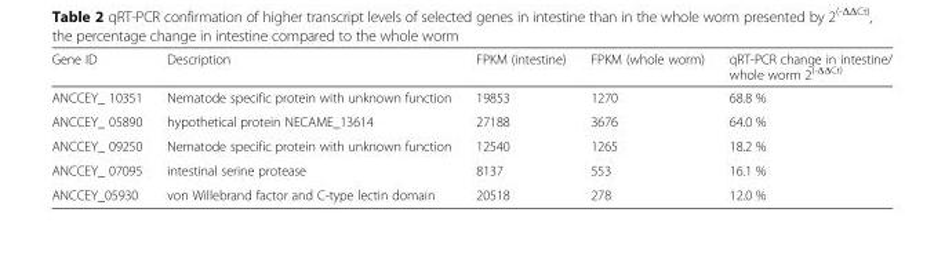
<table><thead><tr><td>Gene ID</td><td>Description</td><td>FPKM (intestine)</td><td>FPKM (whole worm)</td><td>qRT-PCR change in intestine/ whole worm 2<sup>(-ΔΔCt)</sup></td></tr></thead><tbody><tr><td>ANCCEY_ 10351</td><td>Nematode specific protein with unknown function</td><td>19853</td><td>1270</td><td>68.8 %</td></tr><tr><td>ANCCEY_ 05890</td><td>hypothetical protein NECAME_13614</td><td>27188</td><td>3676</td><td>64.0 %</td></tr><tr><td>ANCCEY_ 09250</td><td>Nematode specific protein with unknown function</td><td>12540</td><td>1265</td><td>18.2 %</td></tr><tr><td>ANCCEY_ 07095</td><td>intestinal serine protease</td><td>8137</td><td>553</td><td>16.1 %</td></tr><tr><td>ANCCEY_05930</td><td>von Willebrand factor and C-type lectin domain</td><td>20518</td><td>278</td><td>12.0 %</td></tr></tbody></table>